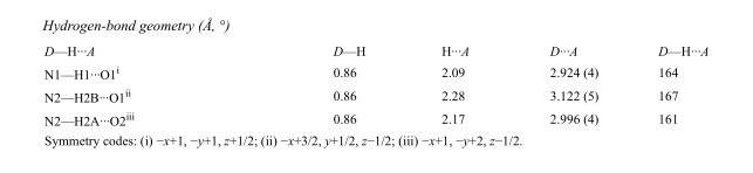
<table><tbody><tr><td>D—H···A</td><td>D—H</td><td>H···A</td><td>D···A</td><td>D—H···A</td></tr><tr><td>N1—H1···O1<sup>i</sup></td><td>0.86</td><td>2.09</td><td>2.924 (4)</td><td>164</td></tr><tr><td>N2—H2B···O1<sup>ii</sup></td><td>0.86</td><td>2.28</td><td>3.122 (5)</td><td>167</td></tr><tr><td>N2—H2A···O2<sup>iii</sup></td><td>0.86</td><td>2.17</td><td>2.996 (4)</td><td>161</td></tr></tbody></table>